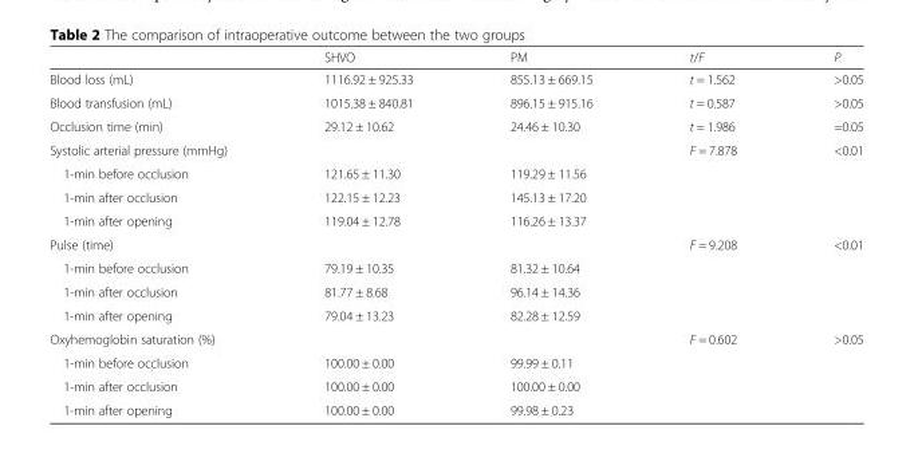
<table><thead><tr><td></td><td>SHVO</td><td>PM</td><td>t/F</td><td>P</td></tr></thead><tbody><tr><td>Blood loss (mL)</td><td>1116.92 ± 925.33</td><td>855.13 ± 669.15</td><td>t = 1.562</td><td>&gt;0.05</td></tr><tr><td>Blood transfusion (mL)</td><td>1015.38 ± 840.81</td><td>896.15 ± 915.16</td><td>t = 0.587</td><td>&gt;0.05</td></tr><tr><td>Occlusion time (min)</td><td>29.12 ± 10.62</td><td>24.46 ± 10.30</td><td>t = 1.986</td><td>=0.05</td></tr><tr><td>Systolic arterial pressure (mmHg)</td><td></td><td></td><td>F = 7.878</td><td>&lt;0.01</td></tr><tr><td>1-min before occlusion</td><td>121.65 ± 11.30</td><td>119.29 ± 11.56</td><td rowspan="3"></td><td rowspan="3"></td></tr><tr><td>1-min after occlusion</td><td>122.15 ± 12.23</td><td>145.13 ± 17.20</td></tr><tr><td>1-min after opening</td><td>119.04 ± 12.78</td><td>116.26 ± 13.37</td></tr><tr><td>Pulse (time)</td><td></td><td></td><td>F = 9.208</td><td>&lt;0.01</td></tr><tr><td>1-min before occlusion</td><td>79.19 ± 10.35</td><td>81.32 ± 10.64</td><td></td><td></td></tr><tr><td>1-min after occlusion</td><td>81.77 ± 8.68</td><td>96.14 ± 14.36</td><td></td><td></td></tr><tr><td>1-min after opening</td><td>79.04 ± 13.23</td><td>82.28 ± 12.59</td><td></td><td></td></tr><tr><td>Oxyhemoglobin saturation (%)</td><td></td><td></td><td>F = 0.602</td><td>&gt;0.05</td></tr><tr><td>1-min before occlusion</td><td>100.00 ± 0.00</td><td>99.99 ± 0.11</td><td></td><td></td></tr><tr><td>1-min after occlusion</td><td>100.00 ± 0.00</td><td>100.00 ± 0.00</td><td></td><td></td></tr><tr><td>1-min after opening</td><td>100.00 ± 0.00</td><td>99.98 ± 0.23</td><td></td><td></td></tr></tbody></table>